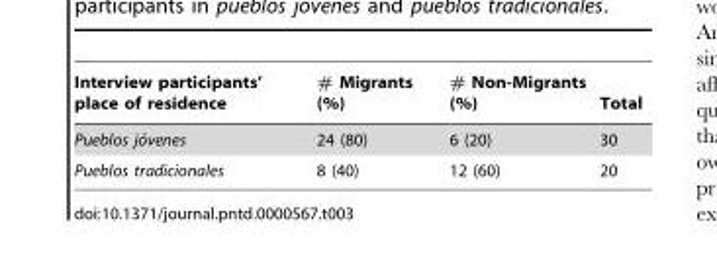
<table><thead><tr><td>Interview participants’ place of residence</td><td># Migrants (%)</td><td># Non-Migrants (%)</td><td>Total</td></tr></thead><tbody><tr><td>Pueblos jo´venes</td><td>24 (80)</td><td>6 (20)</td><td>30</td></tr><tr><td>Pueblos tradicionales</td><td>8 (40)</td><td>12 (60)</td><td>20</td></tr></tbody></table>